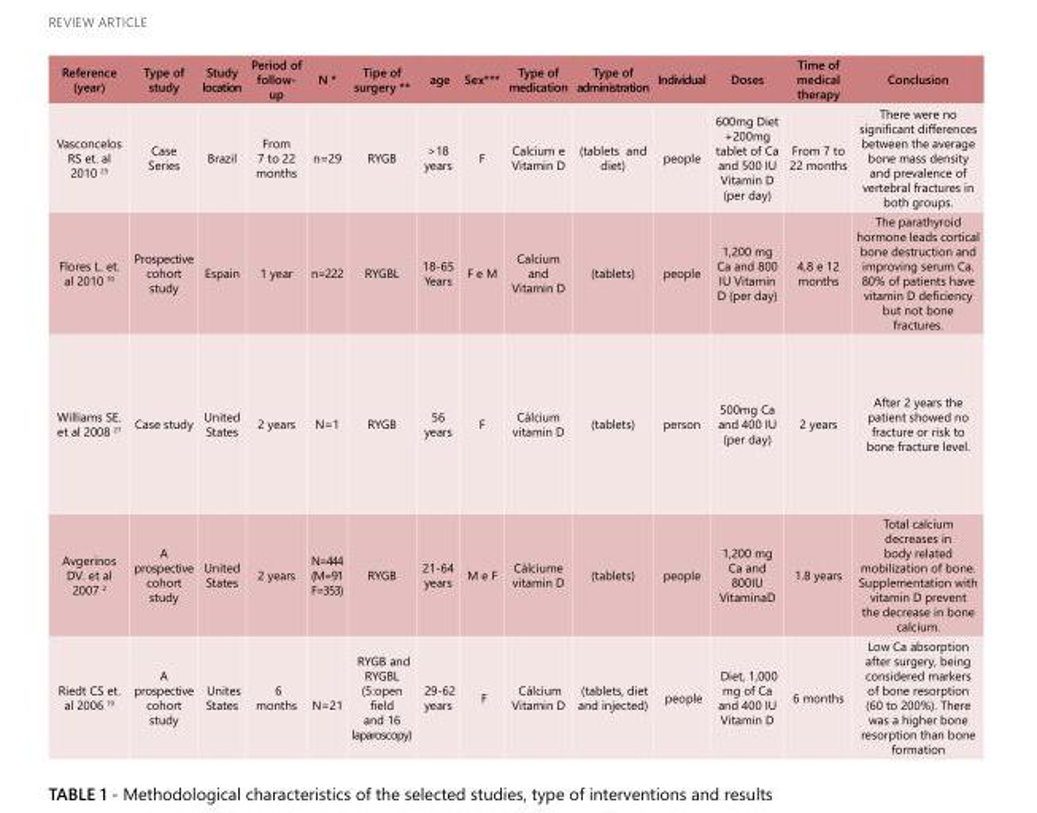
<table><tbody><tr><td>Reference (year)</td><td>Type of study</td><td>Study location</td><td>Period of follow- up</td><td>N *</td><td>Tipe of surgery **</td><td>age</td><td>Sex***</td><td>Type of medication</td><td>Type of administration</td><td>Individual</td><td>Doses</td><td>Time of medical therapy</td><td>Conclusion</td></tr><tr><td>Vasconcelos RS et. al 2010 <sup>25</sup></td><td>Case Series</td><td>Brazil</td><td>From 7 to 22 months</td><td>n=29</td><td>RYGB</td><td>&gt;18 years</td><td>F</td><td>Calcium e Vitamin D</td><td>(tablets and diet)</td><td>people</td><td>600mg Diet +200mg tablet of Ca and 500 IU Vitamin D (per day)</td><td>From 7 to 22 months</td><td>There were no significant differences between the average bone mass density and prevalence of vertebral fractures in both groups.</td></tr><tr><td>Flores L. et. al 2010 <sup>10</sup></td><td>Prospective cohort study</td><td>Espain</td><td>1 year</td><td>n=222</td><td>RYGBL</td><td>18-65 Years</td><td>F e M</td><td>Calcium and Vitamin D</td><td>(tablets)</td><td>people</td><td>1,200 mg Ca and 800 IU Vitamin D (per day)</td><td>4,8 e 12 months</td><td>The parathyroid hormone leads cortical bone destruction and improving serum Ca. 80% of patients have vitamin D deficiency but not bone fractures.</td></tr><tr><td>Williams SE. et al 2008 <sup>27</sup></td><td>Case study</td><td>United States</td><td>2 years</td><td>N=1</td><td>RYGB</td><td>56 years</td><td>F</td><td>Cálcium vitamin D</td><td>(tablets)</td><td>person</td><td>500mg Ca and 400 IU (per day)</td><td>2 years</td><td>After 2 years the patient showed no fracture or risk to bone fracture level.</td></tr><tr><td>Avgerinos DV. et al 2007 <sup>2</sup></td><td>A prospective cohort study</td><td>United States</td><td>2 years</td><td>N=444 (M=91 F=353)</td><td>RYGB</td><td>21-64 years</td><td>M e F</td><td>Cálciume vitamin D</td><td>(tablets)</td><td>people</td><td>1,200 mg Ca and 800IU VitaminaD</td><td>1.8 years</td><td>Total calcium decreases in body related mobilization of bone. Supplementation with vitamin D prevent the decrease in bone calcium.</td></tr><tr><td>Riedt CS et. al 2006 <sup>19</sup></td><td>A prospective cohort study</td><td>Unites States</td><td>6 months</td><td>N=21</td><td>RYGB and RYGBL (5:open field and 16 laparoscopy)</td><td>29-62 years</td><td>F</td><td>Cálcium Vitamin D</td><td>(tablets, diet and injected)</td><td>people</td><td>Diet, 1,000 mg of Ca and 400 IU Vitamin D</td><td>6 months</td><td>Low Ca absorption after surgery, being considered markers of bone resorption (60 to 200%). There was a higher bone resorption than bone formation</td></tr></tbody></table>